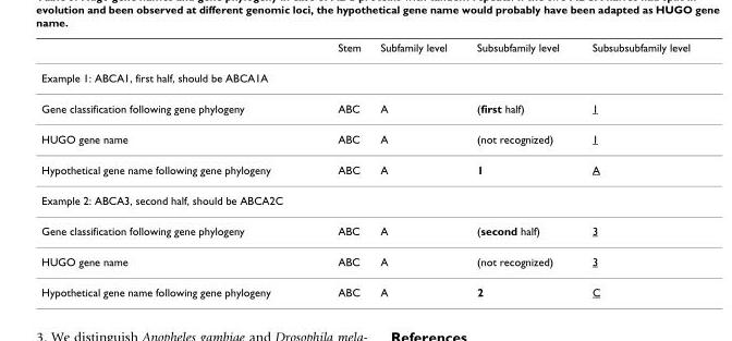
<table><thead><tr><td></td><td>Stem</td><td>Subfamily level</td><td>Subsubfamily level</td><td>Subsubsubfamily level</td></tr></thead><tbody><tr><td colspan="5">Example 1: ABCA1, first half, should be ABCA1A</td></tr><tr><td>Gene classification following gene phylogeny</td><td>ABC</td><td>A</td><td>(first half)</td><td>1</td></tr><tr><td>HUGO gene name</td><td>ABC</td><td>A</td><td>(not recognized)</td><td>1</td></tr><tr><td>Hypothetical gene name following gene phylogeny</td><td>ABC</td><td>A</td><td>1</td><td>A</td></tr><tr><td colspan="5">Example 2: ABCA3, second half, should be ABCA2C</td></tr><tr><td>Gene classification following gene phylogeny</td><td>ABC</td><td>A</td><td>(second half)</td><td>3</td></tr><tr><td>HUGO gene name</td><td>ABC</td><td>A</td><td>(not recognized)</td><td>3</td></tr><tr><td>Hypothetical gene name following gene phylogeny</td><td>ABC</td><td>A</td><td>2</td><td>C</td></tr></tbody></table>